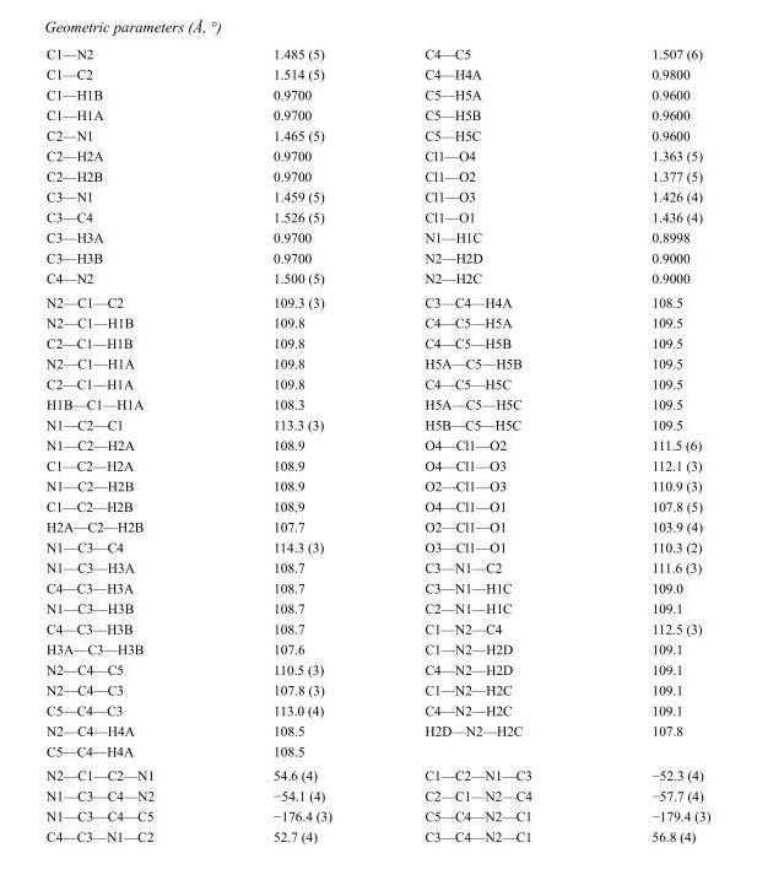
<table><tbody><tr><td>C1—N2</td><td>1.485 (5)</td><td>C4—C5</td><td>1.507 (6)</td></tr><tr><td>C1—C2</td><td>1.514 (5)</td><td>C4—H4A</td><td>0.9800</td></tr><tr><td>C1—H1B</td><td>0.9700</td><td>C5—H5A</td><td>0.9600</td></tr><tr><td>C1—H1A</td><td>0.9700</td><td>C5—H5B</td><td>0.9600</td></tr><tr><td>C2—N1</td><td>1.465 (5)</td><td>C5—H5C</td><td>0.9600</td></tr><tr><td>C2—H2A</td><td>0.9700</td><td>Cl1—O4</td><td>1.363 (5)</td></tr><tr><td>C2—H2B</td><td>0.9700</td><td>Cl1—O2</td><td>1.377 (5)</td></tr><tr><td>C3—N1</td><td>1.459 (5)</td><td>Cl1—O3</td><td>1.426 (4)</td></tr><tr><td>C3—C4</td><td>1.526 (5)</td><td>Cl1—O1</td><td>1.436 (4)</td></tr><tr><td>C3—H3A</td><td>0.9700</td><td>N1—H1C</td><td>0.8998</td></tr><tr><td>C3—H3B</td><td>0.9700</td><td>N2—H2D</td><td>0.9000</td></tr><tr><td>C4—N2</td><td>1.500 (5)</td><td>N2—H2C</td><td>0.9000</td></tr><tr><td>N2—C1—C2</td><td>109.3 (3)</td><td>C3—C4—H4A</td><td>108.5</td></tr><tr><td>N2—C1—H1B</td><td>109.8</td><td>C4—C5—H5A</td><td>109.5</td></tr><tr><td>C2—C1—H1B</td><td>109.8</td><td>C4—C5—H5B</td><td>109.5</td></tr><tr><td>N2—C1—H1A</td><td>109.8</td><td>H5A—C5—H5B</td><td>109.5</td></tr><tr><td>C2—C1—H1A</td><td>109.8</td><td>C4—C5—H5C</td><td>109.5</td></tr><tr><td>H1B—C1—H1A</td><td>108.3</td><td>H5A—C5—H5C</td><td>109.5</td></tr><tr><td>N1—C2—C1</td><td>113.3 (3)</td><td>H5B—C5—H5C</td><td>109.5</td></tr><tr><td>N1—C2—H2A</td><td>108.9</td><td>O4—Cl1—O2</td><td>111.5 (6)</td></tr><tr><td>C1—C2—H2A</td><td>108.9</td><td>O4—Cl1—O3</td><td>112.1 (3)</td></tr><tr><td>N1—C2—H2B</td><td>108.9</td><td>O2—Cl1—O3</td><td>110.9 (3)</td></tr><tr><td>C1—C2—H2B</td><td>108.9</td><td>O4—Cl1—O1</td><td>107.8 (5)</td></tr><tr><td>H2A—C2—H2B</td><td>107.7</td><td>O2—Cl1—O1</td><td>103.9 (4)</td></tr><tr><td>N1—C3—C4</td><td>114.3 (3)</td><td>O3—Cl1—O1</td><td>110.3 (2)</td></tr><tr><td>N1—C3—H3A</td><td>108.7</td><td>C3—N1—C2</td><td>111.6 (3)</td></tr><tr><td>C4—C3—H3A</td><td>108.7</td><td>C3—N1—H1C</td><td>109.0</td></tr><tr><td>N1—C3—H3B</td><td>108.7</td><td>C2—N1—H1C</td><td>109.1</td></tr><tr><td>C4—C3—H3B</td><td>108.7</td><td>C1—N2—C4</td><td>112.5 (3)</td></tr><tr><td>H3A—C3—H3B</td><td>107.6</td><td>C1—N2—H2D</td><td>109.1</td></tr><tr><td>N2—C4—C5</td><td>110.5 (3)</td><td>C4—N2—H2D</td><td>109.1</td></tr><tr><td>N2—C4—C3</td><td>107.8 (3)</td><td>C1—N2—H2C</td><td>109.1</td></tr><tr><td>C5—C4—C3</td><td>113.0 (4)</td><td>C4—N2—H2C</td><td>109.1</td></tr><tr><td>N2—C4—H4A</td><td>108.5</td><td>H2D—N2—H2C</td><td>107.8</td></tr><tr><td>C5—C4—H4A</td><td>108.5</td><td></td><td></td></tr><tr><td>N2—C1—C2—N1</td><td>54.6 (4)</td><td>C1—C2—N1—C3</td><td>−52.3 (4)</td></tr><tr><td>N1—C3—C4—N2</td><td>−54.1 (4)</td><td>C2—C1—N2—C4</td><td>−57.7 (4)</td></tr><tr><td>N1—C3—C4—C5</td><td>−176.4 (3)</td><td>C5—C4—N2—C1</td><td>−179.4 (3)</td></tr><tr><td>C4—C3—N1—C2</td><td>52.7 (4)</td><td>C3—C4—N2—C1</td><td>56.8 (4)</td></tr></tbody></table>